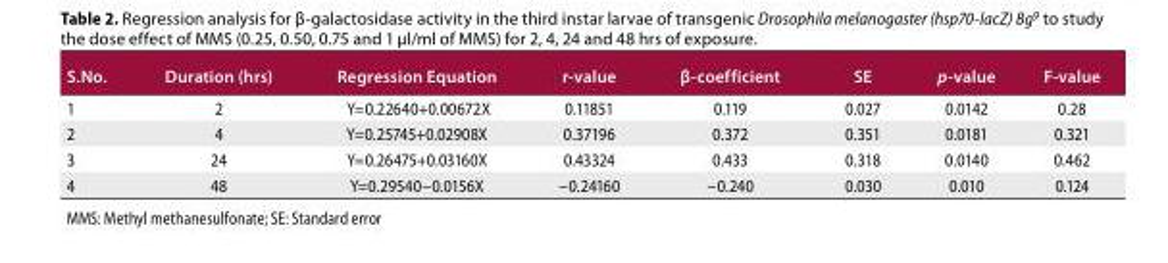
<table><thead><tr><td>S.No.</td><td>Duration (hrs)</td><td>Regression Equation</td><td>r-value</td><td>β-coefficient</td><td>SE</td><td>p-value</td><td>F-value</td></tr></thead><tbody><tr><td>1</td><td>2</td><td>Y=0.22640+0.00672X</td><td>0.11851</td><td>0.119</td><td>0.027</td><td>0.0142</td><td>0.28</td></tr><tr><td>2</td><td>4</td><td>Y=0.25745+0.02908X</td><td>0.37196</td><td>0.372</td><td>0.351</td><td>0.0181</td><td>0.321</td></tr><tr><td>3</td><td>24</td><td>Y=0.26475+0.03160X</td><td>0.43324</td><td>0.433</td><td>0.318</td><td>0.0140</td><td>0.462</td></tr><tr><td>4</td><td>48</td><td>Y=0.29540−0.0156X</td><td>−0.24160</td><td>−0.240</td><td>0.030</td><td>0.010</td><td>0.124</td></tr></tbody></table>